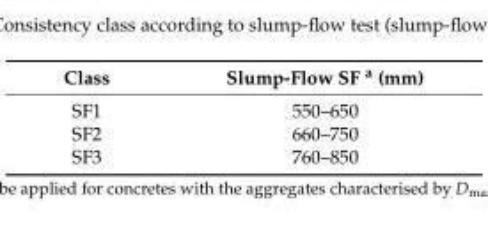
<table><thead><tr><td>Class</td><td>Slump-Flow SF <sup>a</sup> (mm)</td></tr></thead><tbody><tr><td>SF1</td><td>550–650</td></tr><tr><td>SF2</td><td>660–750</td></tr><tr><td>SF3</td><td>760–850</td></tr></tbody></table>